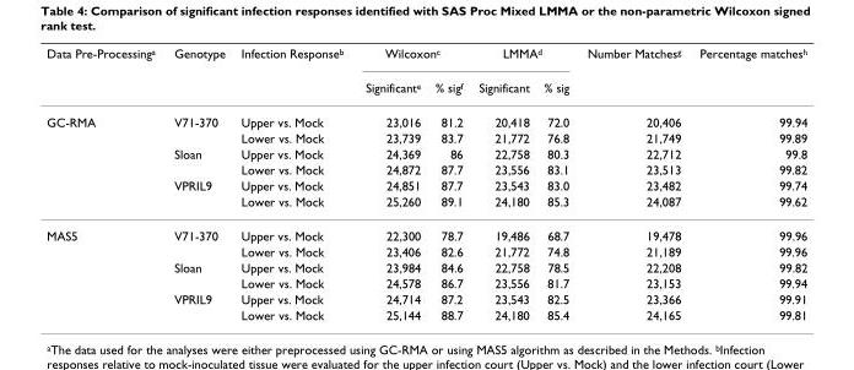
<table><thead><tr><td rowspan="2">Data Pre-Processing<sup>a</sup></td><td rowspan="2">Genotype</td><td rowspan="2">Infection Response<sup>b</sup></td><td colspan="2">Wilcoxon<sup>c</sup></td><td colspan="2">LMMA<sup>d</sup></td><td rowspan="2">Number Matches<sup>g</sup></td><td rowspan="2">Percentage matches<sup>h</sup></td></tr><tr><td>Significant<sup>e</sup></td><td>% sig<sup>f</sup></td><td>Significant</td><td>% sig</td></tr></thead><tbody><tr><td rowspan="6">GC-RMA</td><td>V71-370</td><td>Upper vs. Mock</td><td>23,016</td><td>81.2</td><td>20,418</td><td>72.0</td><td>20,406</td><td>99.94</td></tr><tr><td></td><td>Lower vs. Mock</td><td>23,739</td><td>83.7</td><td>21,772</td><td>76.8</td><td>21,749</td><td>99.89</td></tr><tr><td>Sloan</td><td>Upper vs. Mock</td><td>24,369</td><td>86</td><td>22,758</td><td>80.3</td><td>22,712</td><td>99.8</td></tr><tr><td></td><td>Lower vs. Mock</td><td>24,872</td><td>87.7</td><td>23,556</td><td>83.1</td><td>23,513</td><td>99.82</td></tr><tr><td>VPRIL9</td><td>Upper vs. Mock</td><td>24,851</td><td>87.7</td><td>23,543</td><td>83.0</td><td>23,482</td><td>99.74</td></tr><tr><td></td><td>Lower vs. Mock</td><td>25,260</td><td>89.1</td><td>24,180</td><td>85.3</td><td>24,087</td><td>99.62</td></tr><tr><td rowspan="6">MAS5</td><td>V71-370</td><td>Upper vs. Mock</td><td>22,300</td><td>78.7</td><td>19,486</td><td>68.7</td><td>19,478</td><td>99.96</td></tr><tr><td></td><td>Lower vs. Mock</td><td>23,406</td><td>82.6</td><td>21,772</td><td>74.8</td><td>21,189</td><td>99.96</td></tr><tr><td>Sloan</td><td>Upper vs. Mock</td><td>23,984</td><td>84.6</td><td>22,758</td><td>78.5</td><td>22,208</td><td>99.82</td></tr><tr><td></td><td>Lower vs. Mock</td><td>24,578</td><td>86.7</td><td>23,556</td><td>81.7</td><td>23,153</td><td>99.94</td></tr><tr><td>VPRIL9</td><td>Upper vs. Mock</td><td>24,714</td><td>87.2</td><td>23,543</td><td>82.5</td><td>23,366</td><td>99.91</td></tr><tr><td></td><td>Lower vs. Mock</td><td>25,144</td><td>88.7</td><td>24,180</td><td>85.4</td><td>24,165</td><td>99.81</td></tr></tbody></table>